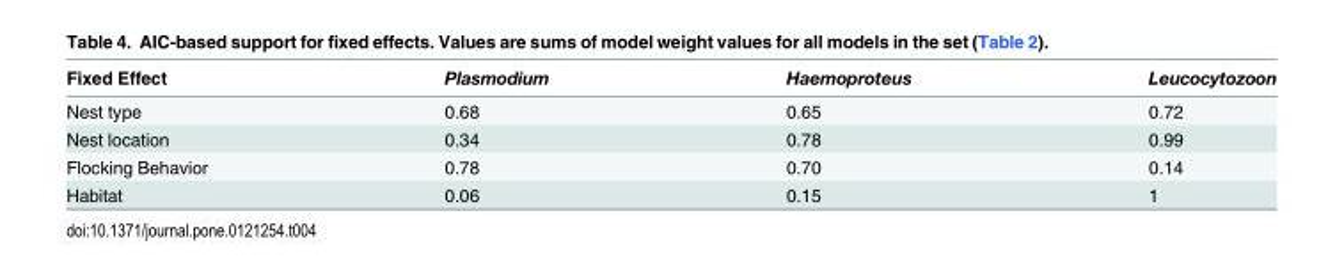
<table><thead><tr><td>Fixed Effect</td><td>Plasmodium</td><td>Haemoproteus</td><td>Leucocytozoon</td></tr></thead><tbody><tr><td>Nest type</td><td>0.68</td><td>0.65</td><td>0.72</td></tr><tr><td>Nest location</td><td>0.34</td><td>0.78</td><td>0.99</td></tr><tr><td>Flocking Behavior</td><td>0.78</td><td>0.70</td><td>0.14</td></tr><tr><td>Habitat</td><td>0.06</td><td>0.15</td><td>1</td></tr></tbody></table>